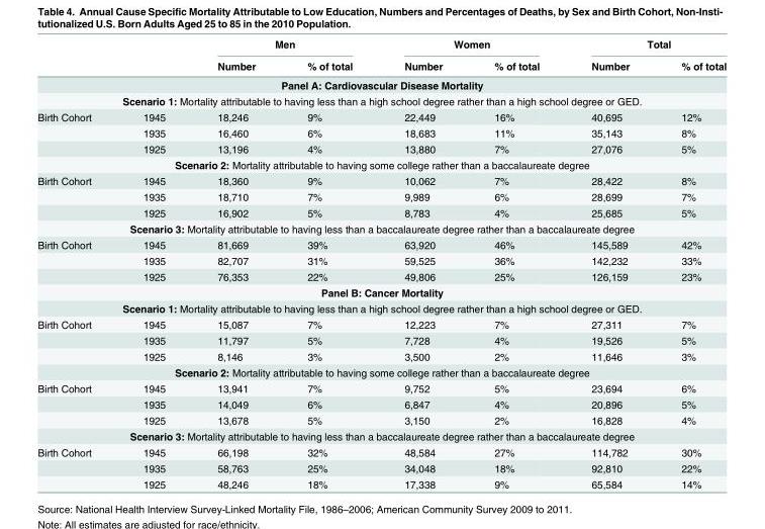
<table><thead><tr><td rowspan="2"></td><td rowspan="2"></td><td colspan="2">Men</td><td colspan="2">Women</td><td colspan="2">Total</td></tr><tr><td>Number</td><td>% of total</td><td>Number</td><td>% of total</td><td>Number</td><td>% of total</td></tr></thead><tbody><tr><td colspan="8">Panel A: Cardiovascular Disease Mortality</td></tr><tr><td colspan="8">Scenario 1: Mortality attributable to having less than a high school degree rather than a high school degree or GED.</td></tr><tr><td rowspan="3">Birth Cohort</td><td>1945</td><td>18,246</td><td>9%</td><td>22,449</td><td>16%</td><td>40,695</td><td>12%</td></tr><tr><td>1935</td><td>16,460</td><td>6%</td><td>18,683</td><td>11%</td><td>35,143</td><td>8%</td></tr><tr><td>1925</td><td>13,196</td><td>4%</td><td>13,880</td><td>7%</td><td>27,076</td><td>5%</td></tr><tr><td colspan="8">Scenario 2: Mortality attributable to having some college rather than a baccalaureate degree</td></tr><tr><td rowspan="3">Birth Cohort</td><td>1945</td><td>18,360</td><td>9%</td><td>10,062</td><td>7%</td><td>28,422</td><td>8%</td></tr><tr><td>1935</td><td>18,710</td><td>7%</td><td>9,989</td><td>6%</td><td>28,699</td><td>7%</td></tr><tr><td>1925</td><td>16,902</td><td>5%</td><td>8,783</td><td>4%</td><td>25,685</td><td>5%</td></tr><tr><td colspan="8">Scenario 3: Mortality attributable to having less than a baccalaureate degree rather than a baccalaureate degree</td></tr><tr><td rowspan="3">Birth Cohort</td><td>1945</td><td>81,669</td><td>39%</td><td>63,920</td><td>46%</td><td>145,589</td><td>42%</td></tr><tr><td>1935</td><td>82,707</td><td>31%</td><td>59,525</td><td>36%</td><td>142,232</td><td>33%</td></tr><tr><td>1925</td><td>76,353</td><td>22%</td><td>49,806</td><td>25%</td><td>126,159</td><td>23%</td></tr><tr><td colspan="8">Panel B: Cancer Mortality</td></tr><tr><td colspan="8">Scenario 1: Mortality attributable to having less than a high school degree rather than a high school degree or GED.</td></tr><tr><td rowspan="3">Birth Cohort</td><td>1945</td><td>15,087</td><td>7%</td><td>12,223</td><td>7%</td><td>27,311</td><td>7%</td></tr><tr><td>1935</td><td>11,797</td><td>5%</td><td>7,728</td><td>4%</td><td>19,526</td><td>5%</td></tr><tr><td>1925</td><td>8,146</td><td>3%</td><td>3,500</td><td>2%</td><td>11,646</td><td>3%</td></tr><tr><td colspan="8">Scenario 2: Mortality attributable to having some college rather than a baccalaureate degree</td></tr><tr><td rowspan="3">Birth Cohort</td><td>1945</td><td>13,941</td><td>7%</td><td>9,752</td><td>5%</td><td>23,694</td><td>6%</td></tr><tr><td>1935</td><td>14,049</td><td>6%</td><td>6,847</td><td>4%</td><td>20,896</td><td>5%</td></tr><tr><td>1925</td><td>13,678</td><td>5%</td><td>3,150</td><td>2%</td><td>16,828</td><td>4%</td></tr><tr><td colspan="8">Scenario 3: Mortality attributable to having less than a baccalaureate degree rather than a baccalaureate degree</td></tr><tr><td rowspan="3">Birth Cohort</td><td>1945</td><td>66,198</td><td>32%</td><td>48,584</td><td>27%</td><td>114,782</td><td>30%</td></tr><tr><td>1935</td><td>58,763</td><td>25%</td><td>34,048</td><td>18%</td><td>92,810</td><td>22%</td></tr><tr><td>1925</td><td>48,246</td><td>18%</td><td>17,338</td><td>9%</td><td>65,584</td><td>14%</td></tr></tbody></table>